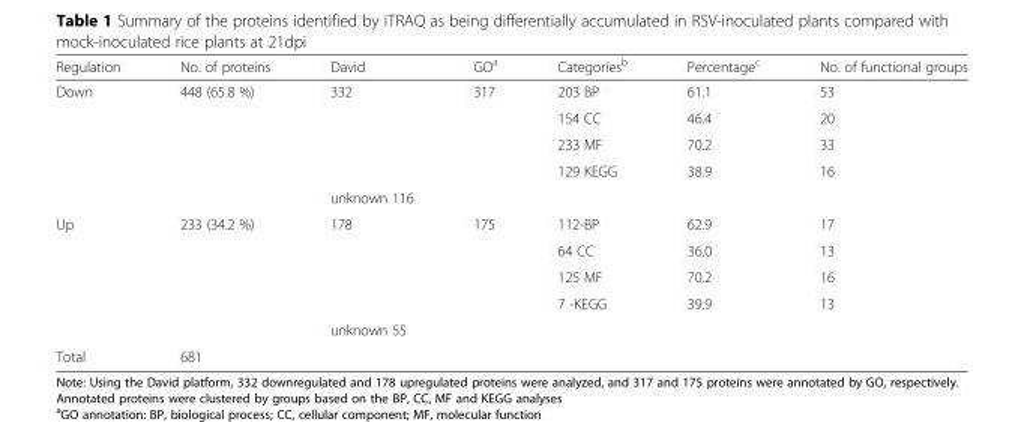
<table><thead><tr><td>Regulation</td><td>No. of proteins</td><td>David</td><td>GO<sup>a</sup></td><td>Categories<sup>b</sup></td><td>Percentage<sup>c</sup></td><td>No. of functional groups</td></tr></thead><tbody><tr><td rowspan="5">Down</td><td>448 (65.8 %)</td><td>332</td><td>317</td><td>203 BP</td><td>61.1</td><td>53</td></tr><tr><td></td><td></td><td></td><td>154 CC</td><td>46.4</td><td>20</td></tr><tr><td></td><td></td><td></td><td>233 MF</td><td>70.2</td><td>33</td></tr><tr><td></td><td></td><td></td><td>129 KEGG</td><td>38.9</td><td>16</td></tr><tr><td></td><td>unknown 116</td><td></td><td></td><td></td><td></td></tr><tr><td rowspan="5">Up</td><td>233 (34.2 %)</td><td>178</td><td>175</td><td>112-BP</td><td>62.9</td><td>17</td></tr><tr><td></td><td></td><td></td><td>64 CC</td><td>36.0</td><td>13</td></tr><tr><td></td><td></td><td></td><td>125 MF</td><td>70.2</td><td>16</td></tr><tr><td></td><td></td><td></td><td>7 -KEGG</td><td>39.9</td><td>13</td></tr><tr><td></td><td>unknown 55</td><td></td><td></td><td></td><td></td></tr><tr><td>Total</td><td>681</td><td></td><td></td><td></td><td></td><td></td></tr></tbody></table>